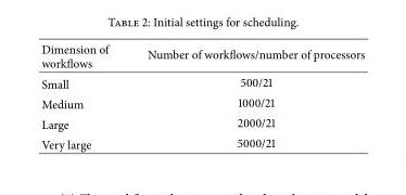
<table><thead><tr><td>Dimension of workflows</td><td>Number of workflows/number of processors</td></tr></thead><tbody><tr><td>Small</td><td>500/21</td></tr><tr><td>Medium</td><td>1000/21</td></tr><tr><td>Large</td><td>2000/21</td></tr><tr><td>Very large</td><td>5000/21</td></tr></tbody></table>